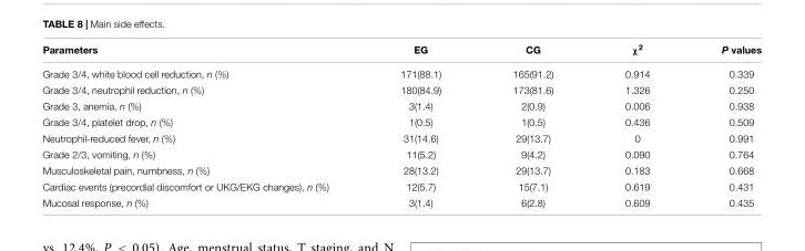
<table><thead><tr><td>Parameters</td><td>EG</td><td>CG</td><td>χ<sup>2</sup></td><td>P values</td></tr></thead><tbody><tr><td>Grade 3/4, white blood cell reduction, n (%)</td><td>171(88.1)</td><td>165(91.2)</td><td>0.914</td><td>0.339</td></tr><tr><td>Grade 3/4, neutrophil reduction, n (%)</td><td>180(84.9)</td><td>173(81.6)</td><td>1.326</td><td>0.250</td></tr><tr><td>Grade 3, anemia, n (%)</td><td>3(1.4)</td><td>2(0.9)</td><td>0.006</td><td>0.938</td></tr><tr><td>Grade 3/4, platelet drop, n (%)</td><td>1(0.5)</td><td>1(0.5)</td><td>0.436</td><td>0.509</td></tr><tr><td>Neutrophil-reduced fever, n (%)</td><td>31(14.6)</td><td>29(13.7)</td><td>0</td><td>0.991</td></tr><tr><td>Grade 2/3, vomiting, n (%)</td><td>11(5.2)</td><td>9(4.2)</td><td>0.090</td><td>0.764</td></tr><tr><td>Musculoskeletal pain, numbness, n (%)</td><td>28(13.2)</td><td>29(13.7)</td><td>0.183</td><td>0.668</td></tr><tr><td>Cardiac events (precordial discomfort or UKG/EKG changes), n (%)</td><td>12(5.7)</td><td>15(7.1)</td><td>0.619</td><td>0.431</td></tr><tr><td>Mucosal response, n (%)</td><td>3(1.4)</td><td>6(2.8)</td><td>0.609</td><td>0.435</td></tr></tbody></table>